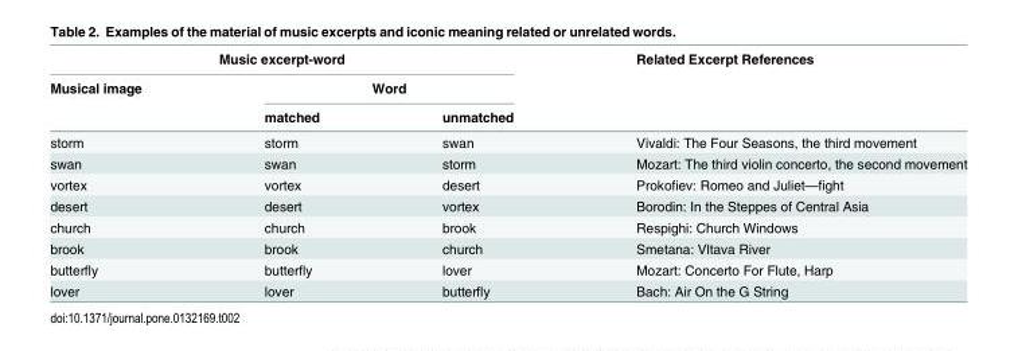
<table><thead><tr><td colspan="3">Music excerpt-word</td><td rowspan="3">Related Excerpt References</td></tr><tr><td rowspan="2">Musical image</td><td colspan="2">Word</td></tr><tr><td>matched</td><td>unmatched</td></tr></thead><tbody><tr><td>storm</td><td>storm</td><td>swan</td><td>Vivaldi: The Four Seasons, the third movement</td></tr><tr><td>swan</td><td>swan</td><td>storm</td><td>Mozart: The third violin concerto, the second movement</td></tr><tr><td>vortex</td><td>vortex</td><td>desert</td><td>Prokofiev: Romeo and Juliet—fight</td></tr><tr><td>desert</td><td>desert</td><td>vortex</td><td>Borodin: In the Steppes of Central Asia</td></tr><tr><td>church</td><td>church</td><td>brook</td><td>Respighi: Church Windows</td></tr><tr><td>brook</td><td>brook</td><td>church</td><td>Smetana: Vltava River</td></tr><tr><td>butterfly</td><td>butterfly</td><td>lover</td><td>Mozart: Concerto For Flute, Harp</td></tr><tr><td>lover</td><td>lover</td><td>butterfly</td><td>Bach: Air On the G String</td></tr></tbody></table>